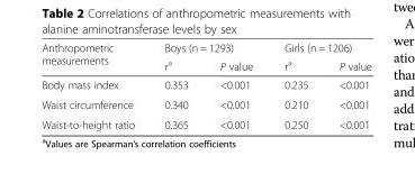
<table><thead><tr><td rowspan="2">Anthropometric measurements</td><td colspan="2">Boys (n = 1293)</td><td colspan="2">Girls (n = 1206)</td></tr><tr><td>r<sup>a</sup></td><td>P value</td><td>r<sup>a</sup></td><td>P value</td></tr></thead><tbody><tr><td>Body mass index</td><td>0.353</td><td>&lt;0.001</td><td>0.235</td><td>&lt;0.001</td></tr><tr><td>Waist circumference</td><td>0.340</td><td>&lt;0.001</td><td>0.210</td><td>&lt;0.001</td></tr><tr><td>Waist-to-height ratio</td><td>0.365</td><td>&lt;0.001</td><td>0.250</td><td>&lt;0.001</td></tr></tbody></table>